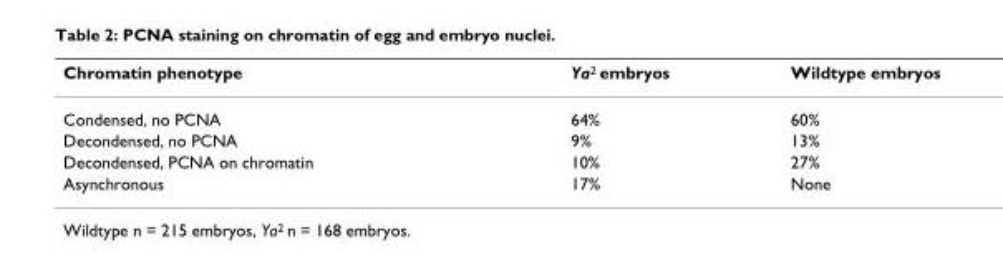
<table><thead><tr><td>Chromatin phenotype</td><td>Ya<sup>2</sup> embryos</td><td>Wildtype embryos</td></tr></thead><tbody><tr><td>Condensed, no PCNA</td><td>64%</td><td>60%</td></tr><tr><td>Decondensed, no PCNA</td><td>9%</td><td>13%</td></tr><tr><td>Decondensed, PCNA on chromatin</td><td>10%</td><td>27%</td></tr><tr><td>Asynchronous</td><td>17%</td><td>None</td></tr></tbody></table>